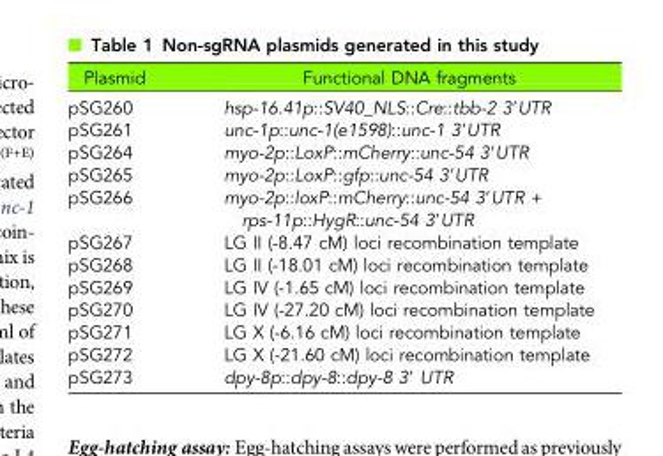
<table><thead><tr><td>Plasmid</td><td>Functional DNA fragments</td></tr></thead><tbody><tr><td>pSG260</td><td>hsp-16.41p::SV40_NLS::Cre::tbb-2 3′UTR</td></tr><tr><td>pSG261</td><td>unc-1p::unc-1(e1598)::unc-1 3′UTR</td></tr><tr><td>pSG264</td><td>myo-2p::LoxP::mCherry::unc-54 3′UTR</td></tr><tr><td>pSG265</td><td>myo-2p::LoxP::gfp::unc-54 3′UTR</td></tr><tr><td>pSG266</td><td>myo-2p::loxP::mCherry::unc-54 3′UTR + rps-11p::HygR::unc-54 3′UTR</td></tr><tr><td>pSG267</td><td>LG II (-8.47 cM) loci recombination template</td></tr><tr><td>pSG268</td><td>LG II (-18.01 cM) loci recombination template</td></tr><tr><td>pSG269</td><td>LG IV (-1.65 cM) loci recombination template</td></tr><tr><td>pSG270</td><td>LG IV (-27.20 cM) loci recombination template</td></tr><tr><td>pSG271</td><td>LG X (-6.16 cM) loci recombination template</td></tr><tr><td>pSG272</td><td>LG X (-21.60 cM) loci recombination template</td></tr><tr><td>pSG273</td><td>dpy-8p::dpy-8::dpy-8 3′ UTR</td></tr></tbody></table>